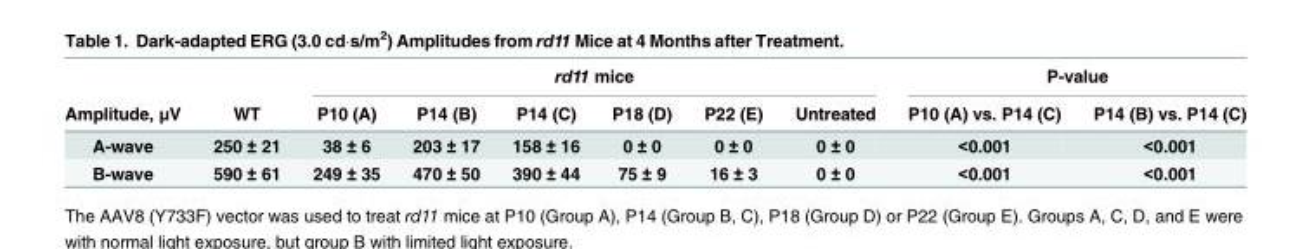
<table><thead><tr><td rowspan="2">Amplitude, μV</td><td rowspan="2">WT</td><td colspan="6">rd11 mice</td><td colspan="2">P-value</td></tr><tr><td>P10 (A)</td><td>P14 (B)</td><td>P14 (C)</td><td>P18 (D)</td><td>P22 (E)</td><td>Untreated</td><td>P10 (A) vs. P14 (C)</td><td>P14 (B) vs. P14 (C)</td></tr></thead><tbody><tr><td>A-wave</td><td>250 ± 21</td><td>38 ± 6</td><td>203 ± 17</td><td>158 ± 16</td><td>0 ± 0</td><td>0 ± 0</td><td>0 ± 0</td><td>&lt;0.001</td><td>&lt;0.001</td></tr><tr><td>B-wave</td><td>590 ± 61</td><td>249 ± 35</td><td>470 ± 50</td><td>390 ± 44</td><td>75 ± 9</td><td>16 ± 3</td><td>0 ± 0</td><td>&lt;0.001</td><td>&lt;0.001</td></tr></tbody></table>